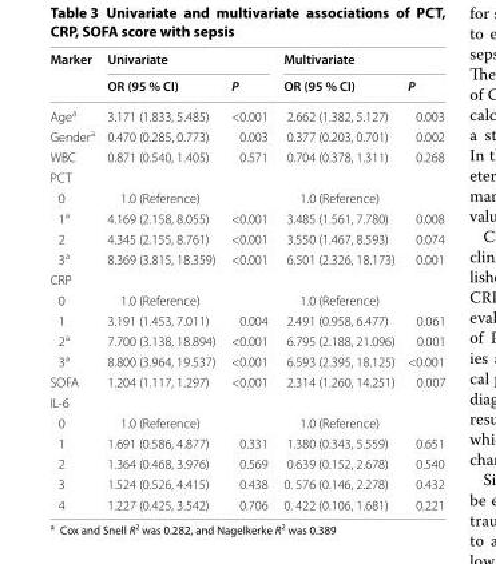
<table><thead><tr><td rowspan="2">Marker</td><td colspan="2">Univariate</td><td colspan="2">Multivariate</td></tr><tr><td>OR (95 % CI)</td><td>P</td><td>OR (95 % CI)</td><td>P</td></tr></thead><tbody><tr><td>Age<sup>a</sup></td><td>3.171 (1.833, 5.485)</td><td>&lt;0.001</td><td>2.662 (1.382, 5.127)</td><td>0.003</td></tr><tr><td>Gender<sup>a</sup></td><td>0.470 (0.285, 0.773)</td><td>0.003</td><td>0.377 (0.203, 0.701)</td><td>0.002</td></tr><tr><td>WBC</td><td>0.871 (0.540, 1.405)</td><td>0.571</td><td>0.704 (0.378, 1.311)</td><td>0.268</td></tr><tr><td colspan="5">PCT</td></tr><tr><td>0</td><td>1.0 (Reference)</td><td></td><td>1.0 (Reference)</td><td></td></tr><tr><td>1<sup>a</sup></td><td>4.169 (2.158, 8.055)</td><td>&lt;0.001</td><td>3.485 (1.561, 7.780)</td><td>0.008</td></tr><tr><td>2</td><td>4.345 (2.155, 8.761)</td><td>&lt;0.001</td><td>3.550 (1.467, 8.593)</td><td>0.074</td></tr><tr><td>3<sup>a</sup></td><td>8.369 (3.815, 18.359)</td><td>&lt;0.001</td><td>6.501 (2.326, 18.173)</td><td>0.001</td></tr><tr><td colspan="5">CRP</td></tr><tr><td>0</td><td>1.0 (Reference)</td><td></td><td>1.0 (Reference)</td><td></td></tr><tr><td>1</td><td>3.191 (1.453, 7.011)</td><td>0.004</td><td>2.491 (0.958, 6.477)</td><td>0.061</td></tr><tr><td>2<sup>a</sup></td><td>7.700 (3.138, 18.894)</td><td>&lt;0.001</td><td>6.795 (2.188, 21.096)</td><td>0.001</td></tr><tr><td>3<sup>a</sup></td><td>8.800 (3.964, 19.537)</td><td>&lt;0.001</td><td>6.593 (2.395, 18.125)</td><td>&lt;0.001</td></tr><tr><td>SOFA</td><td>1.204 (1.117, 1.297)</td><td>&lt;0.001</td><td>2.314 (1.260, 14.251)</td><td>0.007</td></tr><tr><td colspan="5">IL-6</td></tr><tr><td>0</td><td>1.0 (Reference)</td><td></td><td>1.0 (Reference)</td><td></td></tr><tr><td>1</td><td>1.691 (0.586, 4.877)</td><td>0.331</td><td>1.380 (0.343, 5.559)</td><td>0.651</td></tr><tr><td>2</td><td>1.364 (0.468, 3.976)</td><td>0.569</td><td>0.639 (0.152, 2.678)</td><td>0.540</td></tr><tr><td>3</td><td>1.524 (0.526, 4.415)</td><td>0.438</td><td>0. 576 (0.146, 2.278)</td><td>0.432</td></tr><tr><td>4</td><td>1.227 (0.425, 3.542)</td><td>0.706</td><td>0. 422 (0.106, 1.681)</td><td>0.221</td></tr></tbody></table>